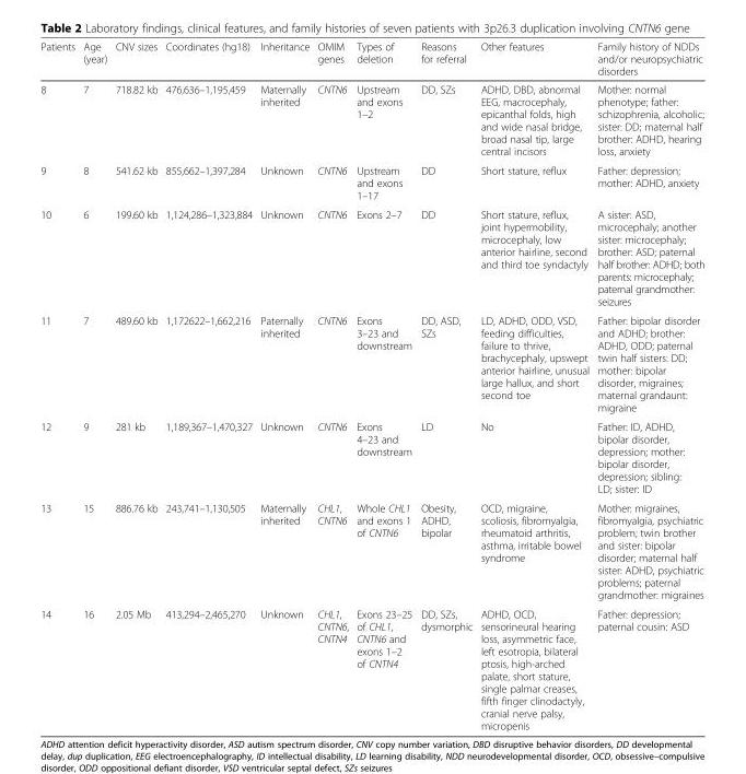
<table><thead><tr><td>Patients</td><td>Age (year)</td><td>CNV sizes</td><td>Coordinates (hg18)</td><td>Inheritance</td><td>OMIM genes</td><td>Types of deletion</td><td>Reasons for referral</td><td>Other features</td><td>Family history of NDDs and/or neuropsychiatric disorders</td></tr></thead><tbody><tr><td>8</td><td>7</td><td>718.82 kb</td><td>476,636–1,195,459</td><td>Maternally inherited</td><td>CNTN6</td><td>Upstream and exons 1–2</td><td>DD, SZs</td><td>ADHD, DBD, abnormal EEG, macrocephaly, epicanthal folds, high and wide nasal bridge, broad nasal tip, large central incisors</td><td>Mother: normal phenotype; father: schizophrenia, alcoholic; sister: DD; maternal half brother: ADHD, hearing loss, anxiety</td></tr><tr><td>9</td><td>8</td><td>541.62 kb</td><td>855,662–1,397,284</td><td>Unknown</td><td>CNTN6</td><td>Upstream and exons 1–17</td><td>DD</td><td>Short stature, reflux</td><td>Father: depression; mother: ADHD, anxiety</td></tr><tr><td>10</td><td>6</td><td>199.60 kb</td><td>1,124,286–1,323,884</td><td>Unknown</td><td>CNTN6</td><td>Exons 2–7</td><td>DD</td><td>Short stature, reflux, joint hypermobility, microcephaly, low anterior hairline, second and third toe syndactyly</td><td>A sister: ASD, microcephaly; another sister: microcephaly; brother: ASD; paternal half brother: ADHD; both parents: microcephaly; paternal grandmother: seizures</td></tr><tr><td>11</td><td>7</td><td>489.60 kb</td><td>1,172622–1,662,216</td><td>Paternally inherited</td><td>CNTN6</td><td>Exons 3–23 and downstream</td><td>DD, ASD, SZs</td><td>LD, ADHD, ODD, VSD, feeding difficulties, failure to thrive, brachycephaly, upswept anterior hairline, unusual large hallux, and short second toe</td><td>Father: bipolar disorder and ADHD; brother: ADHD, ODD; paternal twin half sisters: DD; mother: bipolar disorder, migraines; maternal grandaunt: migraine</td></tr><tr><td>12</td><td>9</td><td>281 kb</td><td>1,189,367–1,470,327</td><td>Unknown</td><td>CNTN6</td><td>Exons 4–23 and downstream</td><td>LD</td><td>No</td><td>Father: ID, ADHD, bipolar disorder, depression; mother: bipolar disorder, depression; sibling: LD; sister: ID</td></tr><tr><td>13</td><td>15</td><td>886.76 kb</td><td>243,741–1,130,505</td><td>Maternally inherited</td><td>CHL1, CNTN6</td><td>Whole CHL1 and exons 1 of CNTN6</td><td>Obesity, ADHD, bipolar</td><td>OCD, migraine, scoliosis, fibromyalgia, rheumatoid arthritis, asthma, irritable bowel syndrome</td><td>Mother: migraines, fibromyalgia, psychiatric problem; twin brother and sister: bipolar disorder; maternal half sister: ADHD, psychiatric problems; paternal grandmother: migraines</td></tr><tr><td>14</td><td>16</td><td>2.05 Mb</td><td>413,294–2,465,270</td><td>Unknown</td><td>CHL1, CNTN6, CNTN4</td><td>Exons 23–25 of CHL1, CNTN6 and exons 1–2 of CNTN4</td><td>DD, SZs, dysmorphic</td><td>ADHD, OCD, sensorineural hearing loss, asymmetric face, left esotropia, bilateral ptosis, high-arched palate, short stature, single palmar creases, fifth finger clinodactyly, cranial nerve palsy, micropenis</td><td>Father: depression; paternal cousin: ASD</td></tr></tbody></table>